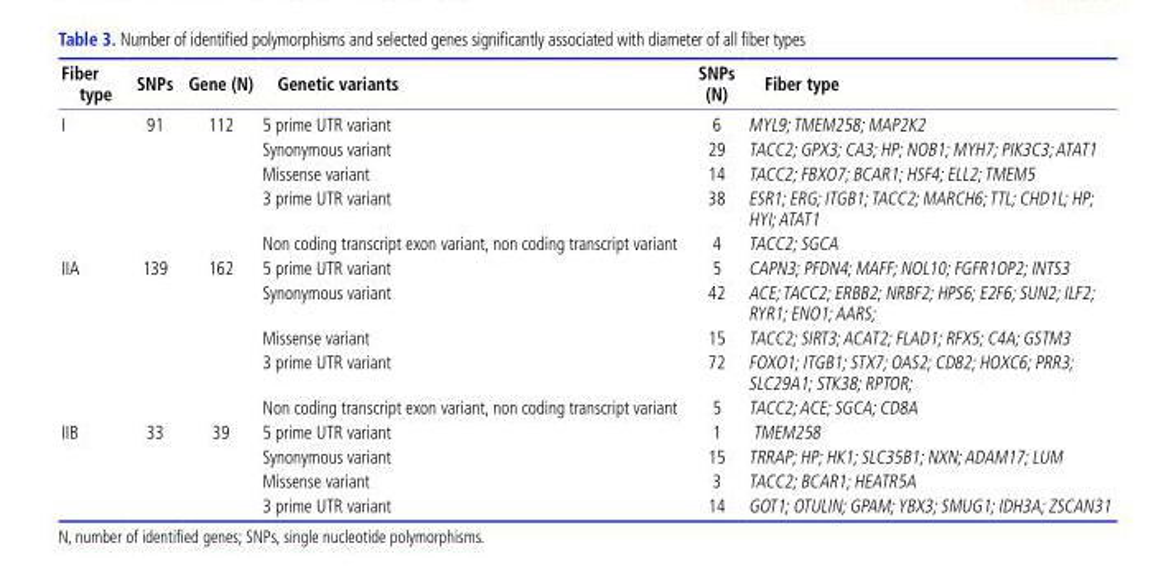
<table><thead><tr><td>Fiber type</td><td>SNPs</td><td>Gene (N)</td><td>Genetic variants</td><td>SNPs (N)</td><td>Fiber type</td></tr></thead><tbody><tr><td rowspan="5">I</td><td rowspan="5">91</td><td rowspan="5">112</td><td>5 prime UTR variant</td><td>6</td><td>MYL9; TMEM258; MAP2K2</td></tr><tr><td>Synonymous variant</td><td>29</td><td>TACC2; GPX3; CA3; HP; NOB1; MYH7; PIK3C3; ATAT1</td></tr><tr><td>Missense variant</td><td>14</td><td>TACC2; FBXO7; BCAR1; HSF4; ELL2; TMEM5</td></tr><tr><td>3 prime UTR variant</td><td>38</td><td>ESR1; ERG; ITGB1; TACC2; MARCH6; TTL; CHD1L; HP; HYI; ATAT1</td></tr><tr><td>Non coding transcript exon variant, non coding transcript variant</td><td>4</td><td>TACC2; SGCA</td></tr><tr><td rowspan="5">IIA</td><td rowspan="5">139</td><td rowspan="5">162</td><td>5 prime UTR variant</td><td>5</td><td>CAPN3; PFDN4; MAFF; NOL10; FGFR1OP2; INTS3</td></tr><tr><td>Synonymous variant</td><td>42</td><td>ACE; TACC2; ERBB2; NRBF2; HPS6; E2F6; SUN2; ILF2; RYR1; ENO1; AARS;</td></tr><tr><td>Missense variant</td><td>15</td><td>TACC2; SIRT3; ACAT2; FLAD1; RFX5; C4A; GSTM3</td></tr><tr><td>3 prime UTR variant</td><td>72</td><td>FOXO1; ITGB1; STX7; OAS2; CD82; HOXC6; PRR3; SLC29A1; STK38; RPTOR;</td></tr><tr><td>Non coding transcript exon variant, non coding transcript variant</td><td>5</td><td>TACC2; ACE; SGCA; CD8A</td></tr><tr><td rowspan="4">IIB</td><td rowspan="4">33</td><td rowspan="4">39</td><td>5 prime UTR variant</td><td>1</td><td>TMEM258</td></tr><tr><td>Synonymous variant</td><td>15</td><td>TRRAP; HP; HK1; SLC35B1; NXN; ADAM17; LUM</td></tr><tr><td>Missense variant</td><td>3</td><td>TACC2; BCAR1; HEATR5A</td></tr><tr><td>3 prime UTR variant</td><td>14</td><td>GOT1; OTULIN; GPAM; YBX3; SMUG1; IDH3A; ZSCAN31</td></tr></tbody></table>